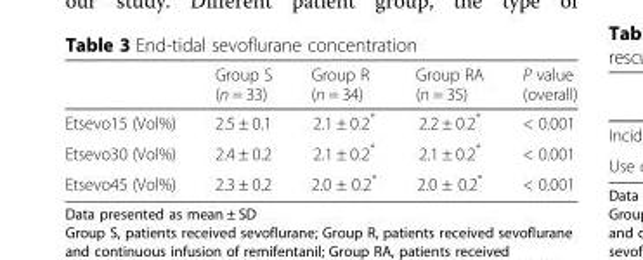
<table><thead><tr><td></td><td>Group S (n = 33)</td><td>Group R (n = 34)</td><td>Group RA (n = 35)</td><td>P value (overall)</td></tr></thead><tbody><tr><td>Etsevo15 (Vol%)</td><td>2.5 ± 0.1</td><td>2.1 ± 0.2*</td><td>2.2 ± 0.2*</td><td>&lt; 0.001</td></tr><tr><td>Etsevo30 (Vol%)</td><td>2.4 ± 0.2</td><td>2.1 ± 0.2*</td><td>2.1 ± 0.2*</td><td>&lt; 0.001</td></tr><tr><td>Etsevo45 (Vol%)</td><td>2.3 ± 0.2</td><td>2.0 ± 0.2*</td><td>2.0 ± 0.2*</td><td>&lt; 0.001</td></tr></tbody></table>